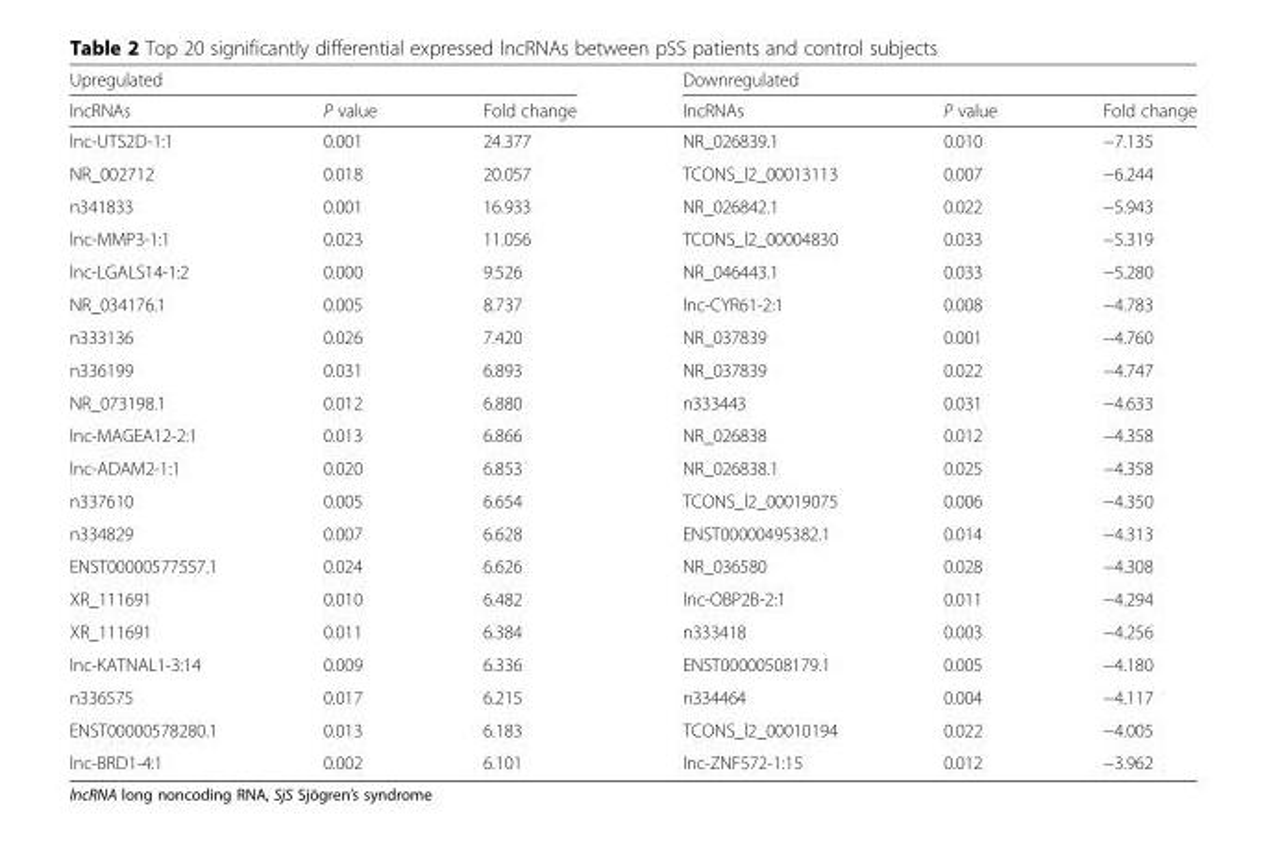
<table><thead><tr><td colspan="3">Upregulated</td><td colspan="3">Downregulated</td></tr><tr><td>lncRNAs</td><td>P value</td><td>Fold change</td><td>lncRNAs</td><td>P value</td><td>Fold change</td></tr></thead><tbody><tr><td>lnc-UTS2D-1:1</td><td>0.001</td><td>24.377</td><td>NR_026839.1</td><td>0.010</td><td>−7.135</td></tr><tr><td>NR_002712</td><td>0.018</td><td>20.057</td><td>TCONS_l2_00013113</td><td>0.007</td><td>−6.244</td></tr><tr><td>n341833</td><td>0.001</td><td>16.933</td><td>NR_026842.1</td><td>0.022</td><td>−5.943</td></tr><tr><td>lnc-MMP3-1:1</td><td>0.023</td><td>11.056</td><td>TCONS_l2_00004830</td><td>0.033</td><td>−5.319</td></tr><tr><td>lnc-LGALS14-1:2</td><td>0.000</td><td>9.526</td><td>NR_046443.1</td><td>0.033</td><td>−5.280</td></tr><tr><td>NR_034176.1</td><td>0.005</td><td>8.737</td><td>lnc-CYR61-2:1</td><td>0.008</td><td>−4.783</td></tr><tr><td>n333136</td><td>0.026</td><td>7.420</td><td>NR_037839</td><td>0.001</td><td>−4.760</td></tr><tr><td>n336199</td><td>0.031</td><td>6.893</td><td>NR_037839</td><td>0.022</td><td>−4.747</td></tr><tr><td>NR_073198.1</td><td>0.012</td><td>6.880</td><td>n333443</td><td>0.031</td><td>−4.633</td></tr><tr><td>lnc-MAGEA12-2:1</td><td>0.013</td><td>6.866</td><td>NR_026838</td><td>0.012</td><td>−4.358</td></tr><tr><td>lnc-ADAM2-1:1</td><td>0.020</td><td>6.853</td><td>NR_026838.1</td><td>0.025</td><td>−4.358</td></tr><tr><td>n337610</td><td>0.005</td><td>6.654</td><td>TCONS_l2_00019075</td><td>0.006</td><td>−4.350</td></tr><tr><td>n334829</td><td>0.007</td><td>6.628</td><td>ENST00000495382.1</td><td>0.014</td><td>−4.313</td></tr><tr><td>ENST00000577557.1</td><td>0.024</td><td>6.626</td><td>NR_036580</td><td>0.028</td><td>−4.308</td></tr><tr><td>XR_111691</td><td>0.010</td><td>6.482</td><td>lnc-OBP2B-2:1</td><td>0.011</td><td>−4.294</td></tr><tr><td>XR_111691</td><td>0.011</td><td>6.384</td><td>n333418</td><td>0.003</td><td>−4.256</td></tr><tr><td>lnc-KATNAL1-3:14</td><td>0.009</td><td>6.336</td><td>ENST00000508179.1</td><td>0.005</td><td>−4.180</td></tr><tr><td>n336575</td><td>0.017</td><td>6.215</td><td>n334464</td><td>0.004</td><td>−4.117</td></tr><tr><td>ENST00000578280.1</td><td>0.013</td><td>6.183</td><td>TCONS_l2_00010194</td><td>0.022</td><td>−4.005</td></tr><tr><td>lnc-BRD1-4:1</td><td>0.002</td><td>6.101</td><td>lnc-ZNF572-1:15</td><td>0.012</td><td>−3.962</td></tr></tbody></table>